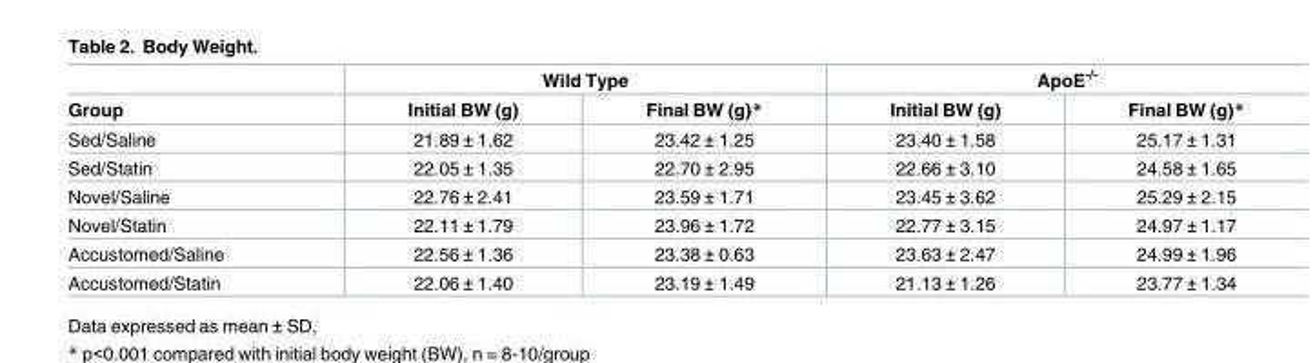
<table><thead><tr><td rowspan="2">Group</td><td colspan="2">Wild Type</td><td colspan="2">ApoE<sup>-/-</sup></td></tr><tr><td>Initial BW (g)</td><td>Final BW (g)*</td><td>Initial BW (g)</td><td>Final BW (g)*</td></tr></thead><tbody><tr><td>Sed/Saline</td><td>21.89 ± 1.62</td><td>23.42 ± 1.25</td><td>23.40 ± 1.58</td><td>25.17 ± 1.31</td></tr><tr><td>Sed/Statin</td><td>22.05 ± 1.35</td><td>22.70 ± 2.95</td><td>22.66 ± 3.10</td><td>24.58 ± 1.65</td></tr><tr><td>Novel/Saline</td><td>22.76 ± 2.41</td><td>23.59 ± 1.71</td><td>23.45 ± 3.62</td><td>25.29 ± 2.15</td></tr><tr><td>Novel/Statin</td><td>22.11 ± 1.79</td><td>23.96 ± 1.72</td><td>22.77 ± 3.15</td><td>24.97 ± 1.17</td></tr><tr><td>Accustomed/Saline</td><td>22.56 ± 1.36</td><td>23.38 ± 0.63</td><td>23.63 ± 2.47</td><td>24.99 ± 1.96</td></tr><tr><td>Accustomed/Statin</td><td>22.06 ± 1.40</td><td>23.19 ± 1.49</td><td>21.13 ± 1.26</td><td>23.77 ± 1.34</td></tr></tbody></table>